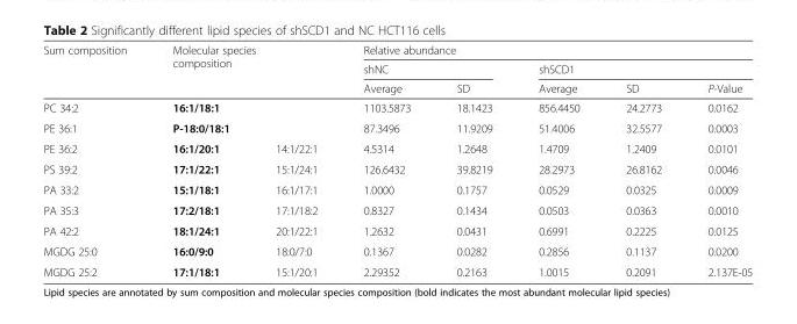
<table><thead><tr><td rowspan="4">Sum composition PC 34:2</td><td rowspan="3" colspan="2">Molecular species composition</td><td colspan="5">Relative abundance</td></tr><tr><td colspan="2">shNC</td><td colspan="3">shSCD1</td></tr><tr><td rowspan="2">Average 1103.5873</td><td rowspan="2">SD 18.1423</td><td rowspan="2">Average 856.4450</td><td rowspan="2">SD 24.2773</td><td rowspan="2">P-Value 0.0162</td></tr><tr><td>16:1/18:1</td><td></td></tr></thead><tbody><tr><td>PE 36:1</td><td>P-18:0/18:1</td><td></td><td>87.3496</td><td>11.9209</td><td>51.4006</td><td>32.5577</td><td>0.0003</td></tr><tr><td>PE 36:2</td><td>16:1/20:1</td><td>14:1/22:1</td><td>4.5314</td><td>1.2648</td><td>1.4709</td><td>1.2409</td><td>0.0101</td></tr><tr><td>PS 39:2</td><td>17:1/22:1</td><td>15:1/24:1</td><td>126.6432</td><td>39.8219</td><td>28.2973</td><td>26.8162</td><td>0.0046</td></tr><tr><td>PA 33:2</td><td>15:1/18:1</td><td>16:1/17:1</td><td>1.0000</td><td>0.1757</td><td>0.0529</td><td>0.0325</td><td>0.0009</td></tr><tr><td>PA 35:3</td><td>17:2/18:1</td><td>17:1/18:2</td><td>0.8327</td><td>0.1434</td><td>0.0503</td><td>0.0363</td><td>0.0010</td></tr><tr><td>PA 42:2</td><td>18:1/24:1</td><td>20:1/22:1</td><td>1.2632</td><td>0.0431</td><td>0.6991</td><td>0.2225</td><td>0.0125</td></tr><tr><td>MGDG 25:0</td><td>16:0/9:0</td><td>18:0/7:0</td><td>0.1367</td><td>0.0282</td><td>0.2856</td><td>0.1137</td><td>0.0200</td></tr><tr><td>MGDG 25:2</td><td>17:1/18:1</td><td>15:1/20:1</td><td>2.29352</td><td>0.2163</td><td>1.0015</td><td>0.2091</td><td>2.137E-05</td></tr></tbody></table>